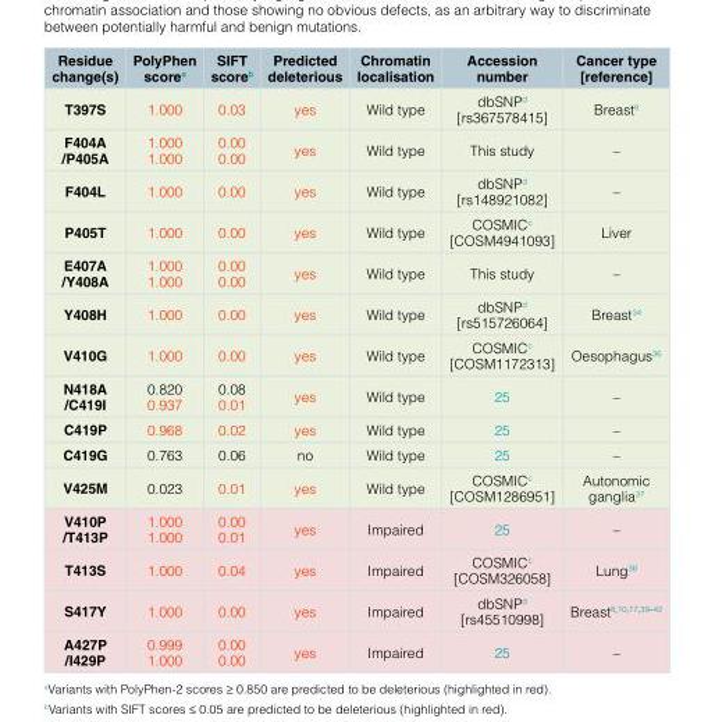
<table><thead><tr><td>Residue change(s)</td><td>PolyPhen score<sup>a</sup></td><td>SIFT score<sup>b</sup></td><td>Predicted deleterious</td><td>Chromatin localisation</td><td>Accession number</td><td>Cancer type [reference]</td></tr></thead><tbody><tr><td>T397S</td><td>1.000</td><td>0.03</td><td>yes</td><td>Wild type</td><td>dbSNP<sup>d</sup> [rs367578415]</td><td>Breast<sup>8</sup></td></tr><tr><td>F404A /P405A</td><td>1.000 1.000</td><td>0.00 0.00</td><td>yes</td><td>Wild type</td><td>This study</td><td>–</td></tr><tr><td>F404L</td><td>1.000</td><td>0.00</td><td>yes</td><td>Wild type</td><td>dbSNP<sup>d</sup> [rs148921082]</td><td>–</td></tr><tr><td>P405T</td><td>1.000</td><td>0.00</td><td>yes</td><td>Wild type</td><td>COSMIC<sup>c</sup> [COSM4941093]</td><td>Liver</td></tr><tr><td>E407A /Y408A</td><td>1.000 1.000</td><td>0.00 0.00</td><td>yes</td><td>Wild type</td><td>This study</td><td>–</td></tr><tr><td>Y408H</td><td>1.000</td><td>0.00</td><td>yes</td><td>Wild type</td><td>dbSNP<sup>d</sup> [rs515726064]</td><td>Breast<sup>34</sup></td></tr><tr><td>V410G</td><td>1.000</td><td>0.00</td><td>yes</td><td>Wild type</td><td>COSMIC<sup>c</sup> [COSM1172313]</td><td>Oesophagus<sup>36</sup></td></tr><tr><td>N418A /C419I</td><td>0.820 0.937</td><td>0.08 0.01</td><td>yes</td><td>Wild type</td><td>25</td><td>–</td></tr><tr><td>C419P</td><td>0.968</td><td>0.02</td><td>yes</td><td>Wild type</td><td>25</td><td>–</td></tr><tr><td>C419G</td><td>0.763</td><td>0.06</td><td>no</td><td>Wild type</td><td>25</td><td>–</td></tr><tr><td>V425M</td><td>0.023</td><td>0.01</td><td>yes</td><td>Wild type</td><td>COSMIC<sup>c</sup> [COSM1286951]</td><td>Autonomic ganglia<sup>37</sup></td></tr><tr><td>V410P /T413P</td><td>1.000 1.000</td><td>0.00 0.01</td><td>yes</td><td>Impaired</td><td>25</td><td>–</td></tr><tr><td>T413S</td><td>1.000</td><td>0.04</td><td>yes</td><td>Impaired</td><td>COSMIC<sup>c</sup> [COSM326058]</td><td>Lung<sup>38</sup></td></tr><tr><td>S417Y</td><td>1.000</td><td>0.00</td><td>yes</td><td>Impaired</td><td>dbSNP<sup>d</sup> [rs45510998]</td><td>Breast<sup>8,10,17,39–42</sup></td></tr><tr><td>A427P /I429P</td><td>0.999 1.000</td><td>0.00 0.00</td><td>yes</td><td>Impaired</td><td>25</td><td>–</td></tr></tbody></table>